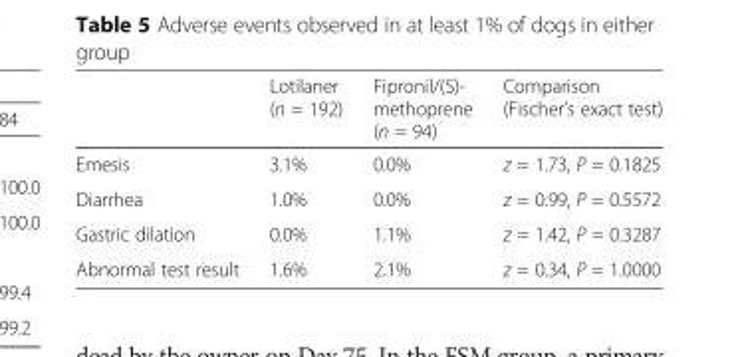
<table><thead><tr><td></td><td>Lotilaner (n = 192)</td><td>Fipronil/(S)- methoprene (n = 94)</td><td>Comparison (Fischer’s exact test)</td></tr></thead><tbody><tr><td>Emesis</td><td>3.1%</td><td>0.0%</td><td>z = 1.73, P = 0.1825</td></tr><tr><td>Diarrhea</td><td>1.0%</td><td>0.0%</td><td>z = 0.99, P = 0.5572</td></tr><tr><td>Gastric dilation</td><td>0.0%</td><td>1.1%</td><td>z = 1.42, P = 0.3287</td></tr><tr><td>Abnormal test result</td><td>1.6%</td><td>2.1%</td><td>z = 0.34, P = 1.0000</td></tr></tbody></table>